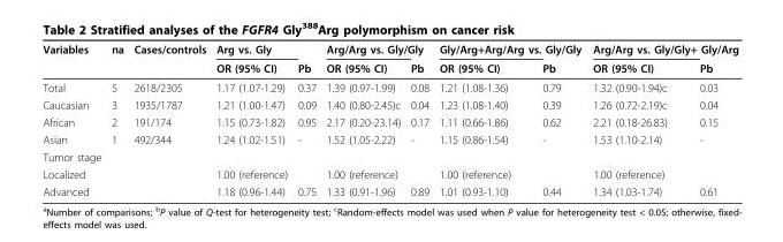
<table><thead><tr><td rowspan="2">Variables</td><td rowspan="2">na</td><td rowspan="2">Cases/controls</td><td colspan="2">Arg vs. Gly</td><td colspan="2">Arg/Arg vs. Gly/Gly</td><td colspan="2">Gly/Arg+Arg/Arg vs. Gly/Gly</td><td colspan="2">Arg/Arg vs. Gly/Gly+ Gly/Arg</td></tr><tr><td>OR (95% CI)</td><td>Pb</td><td>OR (95% CI)</td><td>Pb</td><td>OR (95% CI)</td><td>Pb</td><td>OR (95% CI)</td><td>Pb</td></tr></thead><tbody><tr><td>Total</td><td>5</td><td>2618/2305</td><td>1.17 (1.07-1.29)</td><td>0.37</td><td>1.39 (0.97-1.99)</td><td>0.08</td><td>1.21 (1.08-1.36)</td><td>0.79</td><td>1.32 (0.90-1.94)c</td><td>0.03</td></tr><tr><td>Caucasian</td><td>3</td><td>1935/1787</td><td>1.21 (1.00-1.47)</td><td>0.09</td><td>1.40 (0.80-2.45)c</td><td>0.04</td><td>1.23 (1.08-1.40)</td><td>0.39</td><td>1.26 (0.72-2.19)c</td><td>0.04</td></tr><tr><td>African</td><td>2</td><td>191/174</td><td>1.15 (0.73-1.82)</td><td>0.95</td><td>2.17 (0.20-23.14)</td><td>0.17</td><td>1.11 (0.66-1.86)</td><td>0.62</td><td>2.21 (0.18-26.83)</td><td>0.15</td></tr><tr><td>Asian</td><td>1</td><td>492/344</td><td>1.24 (1.02-1.51)</td><td>-</td><td>1.52 (1.05-2.22)</td><td>-</td><td>1.15 (0.86-1.54)</td><td>-</td><td>1.53 (1.10-2.14)</td><td>-</td></tr><tr><td colspan="11">Tumor stage</td></tr><tr><td>Localized</td><td></td><td></td><td>1.00 (reference)</td><td></td><td>1.00 (reference)</td><td></td><td>1.00 (reference)</td><td></td><td>1.00 (reference)</td><td></td></tr><tr><td>Advanced</td><td></td><td></td><td>1.18 (0.96-1.44)</td><td>0.75</td><td>1.33 (0.91-1.96)</td><td>0.89</td><td>1.01 (0.93-1.10)</td><td>0.44</td><td>1.34 (1.03-1.74)</td><td>0.61</td></tr></tbody></table>